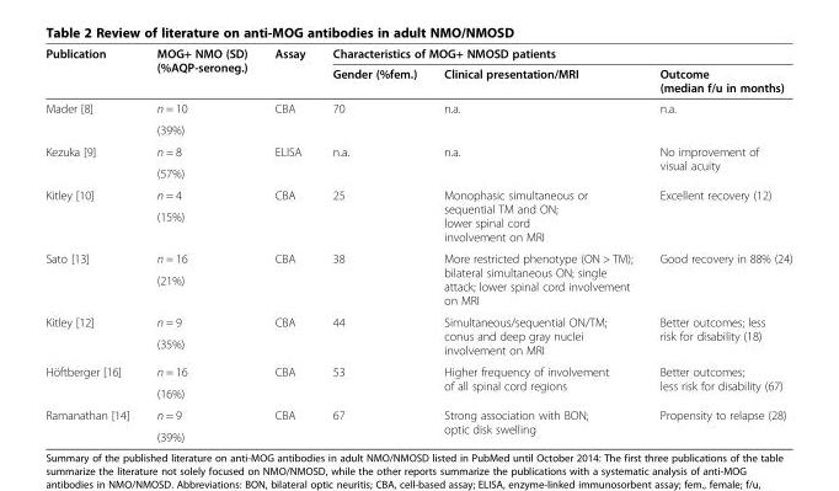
<table><thead><tr><td rowspan="2">Publication</td><td rowspan="2">MOG+ NMO (SD) (%AQP-seroneg.)</td><td rowspan="2">Assay</td><td colspan="3">Characteristics of MOG+ NMOSD patients</td></tr><tr><td>Gender (%fem.)</td><td>Clinical presentation/MRI</td><td>Outcome (median f/u in months)</td></tr></thead><tbody><tr><td rowspan="2">Mader [8]</td><td>n = 10</td><td rowspan="2">CBA</td><td rowspan="2">70</td><td rowspan="2">n.a.</td><td rowspan="2">n.a.</td></tr><tr><td>(39%)</td></tr><tr><td rowspan="2">Kezuka [9]</td><td>n = 8</td><td rowspan="2">ELISA</td><td rowspan="2">n.a.</td><td rowspan="2">n.a.</td><td rowspan="2">No improvement of visual acuity</td></tr><tr><td>(57%)</td></tr><tr><td rowspan="2">Kitley [10]</td><td>n = 4</td><td rowspan="2">CBA</td><td rowspan="2">25</td><td rowspan="2">Monophasic simultaneous or sequential TM and ON; lower spinal cord involvement on MRI</td><td rowspan="2">Excellent recovery (12)</td></tr><tr><td>(15%)</td></tr><tr><td rowspan="2">Sato [13]</td><td>n = 16</td><td rowspan="2">CBA</td><td rowspan="2">38</td><td rowspan="2">More restricted phenotype (ON &gt; TM); bilateral simultaneous ON; single attack; lower spinal cord involvement on MRI</td><td rowspan="2">Good recovery in 88% (24)</td></tr><tr><td>(21%)</td></tr><tr><td rowspan="2">Kitley [12]</td><td>n = 9</td><td rowspan="2">CBA</td><td rowspan="2">44</td><td rowspan="2">Simultaneous/sequential ON/TM; conus and deep gray nuclei involvement on MRI</td><td rowspan="2">Better outcomes; less risk for disability (18)</td></tr><tr><td>(35%)</td></tr><tr><td rowspan="2">Höftberger [16]</td><td>n = 16</td><td rowspan="2">CBA</td><td rowspan="2">53</td><td rowspan="2">Higher frequency of involvement of all spinal cord regions</td><td rowspan="2">Better outcomes; less risk for disability (67)</td></tr><tr><td>(16%)</td></tr><tr><td rowspan="2">Ramanathan [14]</td><td>n = 9</td><td rowspan="2">CBA</td><td rowspan="2">67</td><td rowspan="2">Strong association with BON; optic disk swelling</td><td rowspan="2">Propensity to relapse (28)</td></tr><tr><td>(39%)</td></tr></tbody></table>